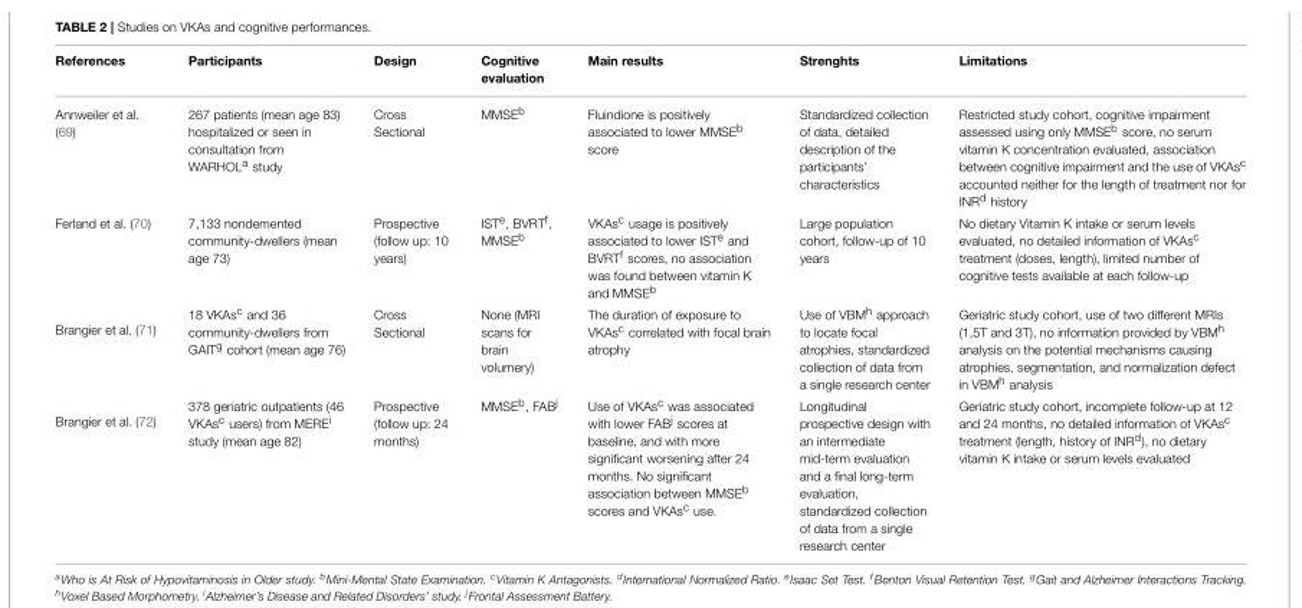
<table><thead><tr><td>References</td><td>Participants</td><td>Design</td><td>Cognitive evaluation</td><td>Main results</td><td>Strenghts</td><td>Limitations</td></tr></thead><tbody><tr><td>Annweiler et al. (69)</td><td>267 patients (mean age 83) hospitalized or seen in consultation from WARHOL<sup>a</sup> study</td><td>Cross Sectional</td><td>MMSE<sup>b</sup></td><td>Fluindione is positively associated to lower MMSE<sup>b</sup> score</td><td>Standardized collection of data, detailed description of the participants’ characteristics</td><td>Restricted study cohort, cognitive impairment assessed using only MMSE<sup>b</sup> score, no serum vitamin K concentration evaluated, association between cognitive impairment and the use of VKAs<sup>c</sup> accounted neither for the length of treatment nor for INR<sup>d</sup> history</td></tr><tr><td>Ferland et al. (70)</td><td>7,133 nondemented community-dwellers (mean age 73)</td><td>Prospective (follow up: 10 years)</td><td>IST<sup>e</sup>, BVRT<sup>f</sup>, MMSE<sup>b</sup></td><td>VKAs<sup>c</sup> usage is positively associated to lower IST<sup>e</sup> and BVRT<sup>f</sup> scores, no association was found between vitamin K and MMSE<sup>b</sup></td><td>Large population cohort, follow-up of 10 years</td><td>No dietary Vitamin K intake or serum levels evaluated, no detailed information of VKAs<sup>c</sup> treatment (doses, length), limited number of cognitive tests available at each follow-up</td></tr><tr><td>Brangier et al. (71)</td><td>18 VKAs<sup>c</sup> and 36 community-dwellers from GAIT<sup>g</sup> cohort (mean age 76)</td><td>Cross Sectional</td><td>None (MRI scans for brain volumery)</td><td>The duration of exposure to VKAs<sup>c</sup> correlated with focal brain atrophy</td><td>Use of VBM<sup>h</sup> approach to locate focal atrophies, standardized collection of data from a single research center</td><td>Geriatric study cohort, use of two different MRIs (1,5T and 3T), no information provided by VBM<sup>h</sup> analysis on the potential mechanisms causing atrophies, segmentation, and normalization defect in VBM<sup>h</sup> analysis</td></tr><tr><td>Brangier et al. (72)</td><td>378 geriatric outpatients (46 VKAs<sup>c</sup> users) from MERE<sup>i</sup> study (mean age 82)</td><td>Prospective (follow up: 24 months)</td><td>MMSE<sup>b</sup>, FAB<sup>j</sup></td><td>Use of VKAs<sup>c</sup> was associated with lower FAB<sup>j</sup> scores at baseline, and with more significant worsening after 24 months. No significant association between MMSE<sup>b</sup> scores and VKAs<sup>c</sup> use.</td><td>Longitudinal prospective design with an intermediate mid-term evaluation and a final long-term evaluation, standardized collection of data from a single research center</td><td>Geriatric study cohort, incomplete follow-up at 12 and 24 months, no detailed information of VKAs<sup>c</sup> treatment (length, history of INR<sup>d</sup>), no dietary vitamin K intake or serum levels evaluated</td></tr></tbody></table>